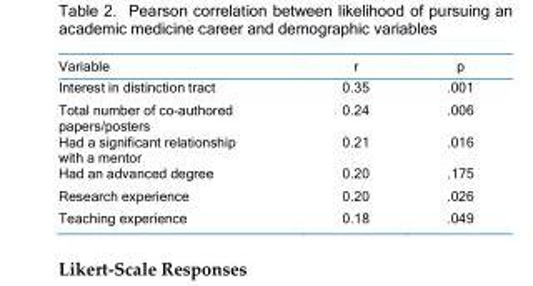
<table><thead><tr><td>Variable</td><td>r</td><td>p</td></tr></thead><tbody><tr><td>Interest in distinction tract</td><td>0.35</td><td>.001</td></tr><tr><td>Total number of co-authored papers/posters</td><td>0.24</td><td>.006</td></tr><tr><td>Had a significant relationship with a mentor</td><td>0.21</td><td>.016</td></tr><tr><td>Had an advanced degree</td><td>0.20</td><td>.175</td></tr><tr><td>Research experience</td><td>0.20</td><td>.026</td></tr><tr><td>Teaching experience</td><td>0.18</td><td>.049</td></tr></tbody></table>